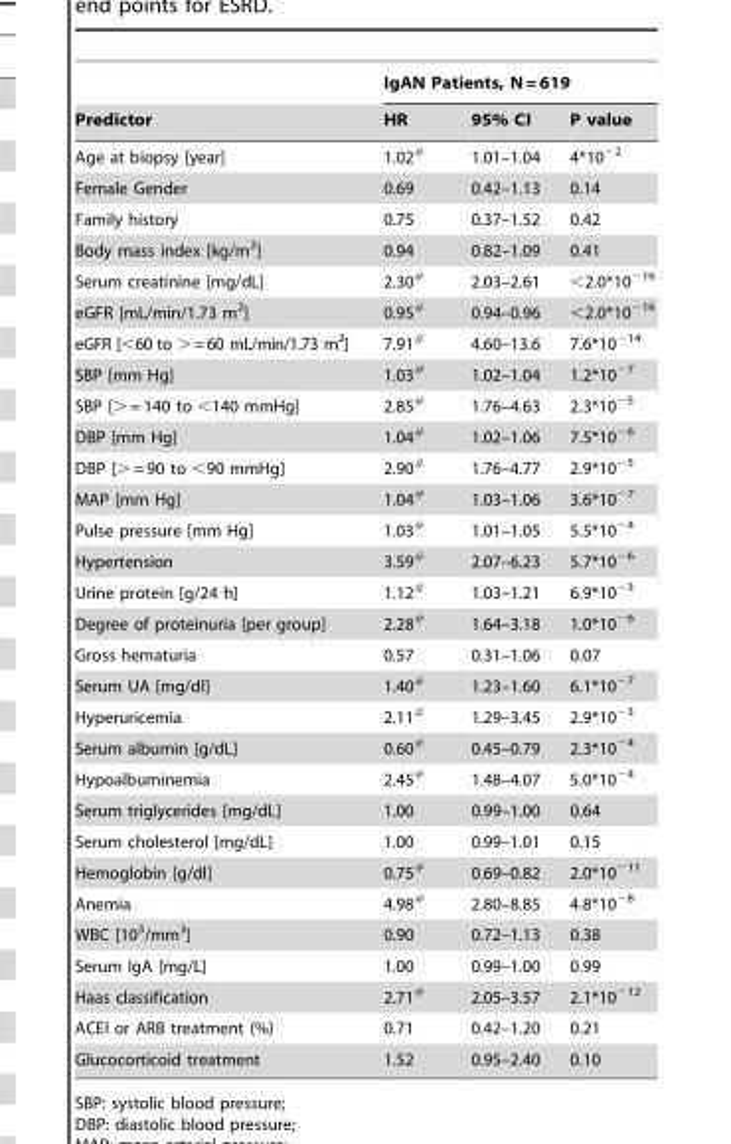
<table><thead><tr><td rowspan="2">Predictor</td><td colspan="3">IgAN Patients, N = 619</td></tr><tr><td>HR</td><td>95% CI</td><td>P value</td></tr></thead><tbody><tr><td>Age at biopsy [year]</td><td>1.02<sup>#</sup></td><td>1.01–1.04</td><td>4*10<sup>−2</sup></td></tr><tr><td>Female Gender</td><td>0.69</td><td>0.42–1.13</td><td>0.14</td></tr><tr><td>Family history</td><td>0.75</td><td>0.37–1.52</td><td>0.42</td></tr><tr><td>Body mass index [kg/m<sup>2</sup>]</td><td>0.94</td><td>0.82–1.09</td><td>0.41</td></tr><tr><td>Serum creatinine [mg/dL]</td><td>2.30<sup>#</sup></td><td>2.03–2.61</td><td>&lt;2.0*10<sup>−16</sup></td></tr><tr><td>eGFR [mL/min/1.73 m<sup>2</sup>]</td><td>0.95<sup>#</sup></td><td>0.94–0.96</td><td>&lt;2.0*10<sup>−16</sup></td></tr><tr><td>eGFR [&lt;60 to &gt;=60 mL/min/1.73 m<sup>2</sup>]</td><td>7.91<sup>#</sup></td><td>4.60–13.6</td><td>7.6*10<sup>−14</sup></td></tr><tr><td>SBP [mm Hg]</td><td>1.03<sup>#</sup></td><td>1.02–1.04</td><td>1.2*10<sup>−7</sup></td></tr><tr><td>SBP [&gt; = 140 to &lt;140 mmHg]</td><td>2.85<sup>#</sup></td><td>1.76–4.63</td><td>2.3*10<sup>−5</sup></td></tr><tr><td>DBP [mm Hg]</td><td>1.04<sup>#</sup></td><td>1.02–1.06</td><td>7.5*10<sup>−6</sup></td></tr><tr><td>DBP [&gt; = 90 to &lt;90 mmHg]</td><td>2.90<sup>#</sup></td><td>1.76–4.77</td><td>2.9*10<sup>−5</sup></td></tr><tr><td>MAP [mm Hg]</td><td>1.04<sup>#</sup></td><td>1.03–1.06</td><td>3.6*10<sup>−7</sup></td></tr><tr><td>Pulse pressure [mm Hg]</td><td>1.03<sup>#</sup></td><td>1.01–1.05</td><td>5.5*10<sup>−4</sup></td></tr><tr><td>Hypertension</td><td>3.59<sup>#</sup></td><td>2.07–6.23</td><td>5.7*10<sup>−6</sup></td></tr><tr><td>Urine protein [g/24 h]</td><td>1.12<sup>#</sup></td><td>1.03–1.21</td><td>6.9*10<sup>−3</sup></td></tr><tr><td>Degree of proteinuria [per group]</td><td>2.28<sup>#</sup></td><td>1.64–3.18</td><td>1.0*10<sup>−6</sup></td></tr><tr><td>Gross hematuria</td><td>0.57</td><td>0.31–1.06</td><td>0.07</td></tr><tr><td>Serum UA [mg/dl]</td><td>1.40<sup>#</sup></td><td>1.23–1.60</td><td>6.1*10<sup>−7</sup></td></tr><tr><td>Hyperuricemia</td><td>2.11<sup>#</sup></td><td>1.29–3.45</td><td>2.9*10<sup>−3</sup></td></tr><tr><td>Serum albumin [g/dL]</td><td>0.60<sup>#</sup></td><td>0.45–0.79</td><td>2.3*10<sup>−4</sup></td></tr><tr><td>Hypoalbuminemia</td><td>2.45<sup>#</sup></td><td>1.48–4.07</td><td>5.0*10<sup>−4</sup></td></tr><tr><td>Serum triglycerides [mg/dL]</td><td>1.00</td><td>0.99–1.00</td><td>0.64</td></tr><tr><td>Serum cholesterol [mg/dL]</td><td>1.00</td><td>0.99–1.01</td><td>0.15</td></tr><tr><td>Hemoglobin [g/dl]</td><td>0.75<sup>#</sup></td><td>0.69–0.82</td><td>2.0*10<sup>−11</sup></td></tr><tr><td>Anemia</td><td>4.98<sup>#</sup></td><td>2.80–8.85</td><td>4.8*10<sup>−8</sup></td></tr><tr><td>WBC [10<sup>3</sup>/mm<sup>3</sup>]</td><td>0.90</td><td>0.72–1.13</td><td>0.38</td></tr><tr><td>Serum IgA [mg/L]</td><td>1.00</td><td>0.99–1.00</td><td>0.99</td></tr><tr><td>Haas classification</td><td>2.71<sup>#</sup></td><td>2.05–3.57</td><td>2.1*10<sup>−12</sup></td></tr><tr><td>ACEI or ARB treatment (%)</td><td>0.71</td><td>0.42–1.20</td><td>0.21</td></tr><tr><td>Glucocorticoid treatment</td><td>1.52</td><td>0.95–2.40</td><td>0.10</td></tr></tbody></table>